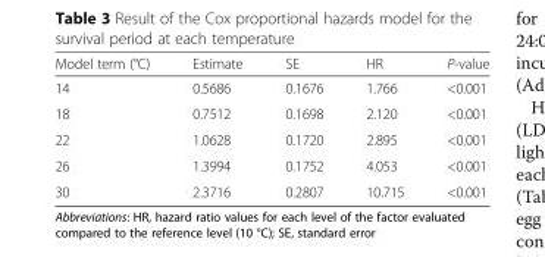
<table><thead><tr><td>Model term (°C)</td><td>Estimate</td><td>SE</td><td>HR</td><td>P-value</td></tr></thead><tbody><tr><td>14</td><td>0.5686</td><td>0.1676</td><td>1.766</td><td>&lt;0.001</td></tr><tr><td>18</td><td>0.7512</td><td>0.1698</td><td>2.120</td><td>&lt;0.001</td></tr><tr><td>22</td><td>1.0628</td><td>0.1720</td><td>2.895</td><td>&lt;0.001</td></tr><tr><td>26</td><td>1.3994</td><td>0.1752</td><td>4.053</td><td>&lt;0.001</td></tr><tr><td>30</td><td>2.3716</td><td>0.2807</td><td>10.715</td><td>&lt;0.001</td></tr></tbody></table>